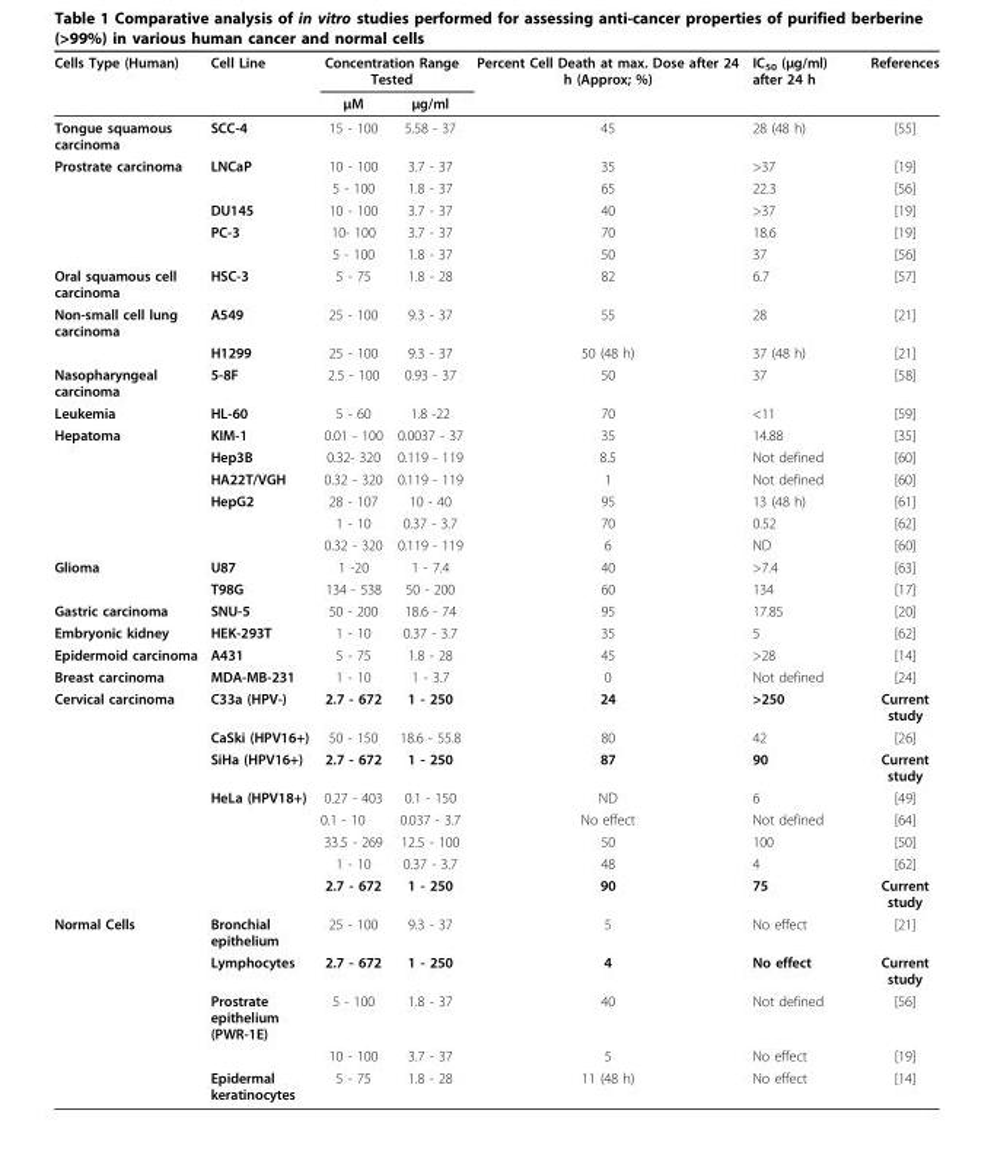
<table><thead><tr><td rowspan="2">Cells Type (Human)</td><td rowspan="2">Cell Line</td><td colspan="2">Concentration Range Tested</td><td rowspan="2">Percent Cell Death at max. Dose after 24 h (Approx; %)</td><td rowspan="2">IC<sub>50</sub> (μg/ml) after 24 h</td><td rowspan="2">References</td></tr><tr><td>μM</td><td>μg/ml</td></tr></thead><tbody><tr><td>Tongue squamous carcinoma</td><td>SCC-4</td><td>15 - 100</td><td>5.58 - 37</td><td>45</td><td>28 (48 h)</td><td>[55]</td></tr><tr><td rowspan="5">Prostrate carcinoma</td><td>LNCaP</td><td>10 - 100</td><td>3.7 - 37</td><td>35</td><td>&gt;37</td><td>[19]</td></tr><tr><td></td><td>5 - 100</td><td>1.8 - 37</td><td>65</td><td>22.3</td><td>[56]</td></tr><tr><td>DU145</td><td>10 - 100</td><td>3.7 - 37</td><td>40</td><td>&gt;37</td><td>[19]</td></tr><tr><td>PC-3</td><td>10- 100</td><td>3.7 - 37</td><td>70</td><td>18.6</td><td>[19]</td></tr><tr><td></td><td>5 - 100</td><td>1.8 - 37</td><td>50</td><td>37</td><td>[56]</td></tr><tr><td>Oral squamous cell carcinoma</td><td>HSC-3</td><td>5 - 75</td><td>1.8 - 28</td><td>82</td><td>6.7</td><td>[57]</td></tr><tr><td rowspan="2">Non-small cell lung carcinoma</td><td>A549</td><td>25 - 100</td><td>9.3 - 37</td><td>55</td><td>28</td><td>[21]</td></tr><tr><td>H1299</td><td>25 - 100</td><td>9.3 - 37</td><td>50 (48 h)</td><td>37 (48 h)</td><td>[21]</td></tr><tr><td>Nasopharyngeal carcinoma</td><td>5-8F</td><td>2.5 - 100</td><td>0.93 - 37</td><td>50</td><td>37</td><td>[58]</td></tr><tr><td>Leukemia</td><td>HL-60</td><td>5 - 60</td><td>1.8 -22</td><td>70</td><td>&lt;11</td><td>[59]</td></tr><tr><td rowspan="6">Hepatoma</td><td>KIM-1</td><td>0.01 - 100</td><td>0.0037 - 37</td><td>35</td><td>14.88</td><td>[35]</td></tr><tr><td>Hep3B</td><td>0.32- 320</td><td>0.119 - 119</td><td>8.5</td><td>Not defined</td><td>[60]</td></tr><tr><td>HA22T/VGH</td><td>0.32 - 320</td><td>0.119 - 119</td><td>1</td><td>Not defined</td><td>[60]</td></tr><tr><td>HepG2</td><td>28 - 107</td><td>10 - 40</td><td>95</td><td>13 (48 h)</td><td>[61]</td></tr><tr><td></td><td>1 - 10</td><td>0.37 - 3.7</td><td>70</td><td>0.52</td><td>[62]</td></tr><tr><td></td><td>0.32 - 320</td><td>0.119 - 119</td><td>6</td><td>ND</td><td>[60]</td></tr><tr><td rowspan="2">Glioma</td><td>U87</td><td>1 -20</td><td>1 - 7.4</td><td>40</td><td>&gt;7.4</td><td>[63]</td></tr><tr><td>T98G</td><td>134 - 538</td><td>50 - 200</td><td>60</td><td>134</td><td>[17]</td></tr><tr><td>Gastric carcinoma</td><td>SNU-5</td><td>50 - 200</td><td>18.6 - 74</td><td>95</td><td>17.85</td><td>[20]</td></tr><tr><td>Embryonic kidney</td><td>HEK-293T</td><td>1 - 10</td><td>0.37 - 3.7</td><td>35</td><td>5</td><td>[62]</td></tr><tr><td>Epidermoid carcinoma</td><td>A431</td><td>5 - 75</td><td>1.8 - 28</td><td>45</td><td>&gt;28</td><td>[14]</td></tr><tr><td>Breast carcinoma</td><td>MDA-MB-231</td><td>1 - 10</td><td>1 - 3.7</td><td>0</td><td>Not defined</td><td>[24]</td></tr><tr><td rowspan="8">Cervical carcinoma</td><td>C33a (HPV-)</td><td>2.7 - 672</td><td>1 - 250</td><td>24</td><td>&gt;250</td><td>Current study</td></tr><tr><td>CaSki (HPV16+)</td><td>50 - 150</td><td>18.6 - 55.8</td><td>80</td><td>42</td><td>[26]</td></tr><tr><td>SiHa (HPV16+)</td><td>2.7 - 672</td><td>1 - 250</td><td>87</td><td>90</td><td>Current study</td></tr><tr><td>HeLa (HPV18+)</td><td>0.27 - 403</td><td>0.1 - 150</td><td>ND</td><td>6</td><td>[49]</td></tr><tr><td></td><td>0.1 - 10</td><td>0.037 - 3.7</td><td>No effect</td><td>Not defined</td><td>[64]</td></tr><tr><td></td><td>33.5 - 269</td><td>12.5 - 100</td><td>50</td><td>100</td><td>[50]</td></tr><tr><td></td><td>1 - 10</td><td>0.37 - 3.7</td><td>48</td><td>4</td><td>[62]</td></tr><tr><td></td><td>2.7 - 672</td><td>1 - 250</td><td>90</td><td>75</td><td>Current study</td></tr><tr><td rowspan="5">Normal Cells</td><td>Bronchial epithelium</td><td>25 - 100</td><td>9.3 - 37</td><td>5</td><td>No effect</td><td>[21]</td></tr><tr><td>Lymphocytes</td><td>2.7 - 672</td><td>1 - 250</td><td>4</td><td>No effect</td><td>Current study</td></tr><tr><td>Prostrate epithelium (PWR-1E)</td><td>5 - 100</td><td>1.8 - 37</td><td>40</td><td>Not defined</td><td>[56]</td></tr><tr><td></td><td>10 - 100</td><td>3.7 - 37</td><td>5</td><td>No effect</td><td>[19]</td></tr><tr><td>Epidermal keratinocytes</td><td>5 - 75</td><td>1.8 - 28</td><td>11 (48 h)</td><td>No effect</td><td>[14]</td></tr></tbody></table>